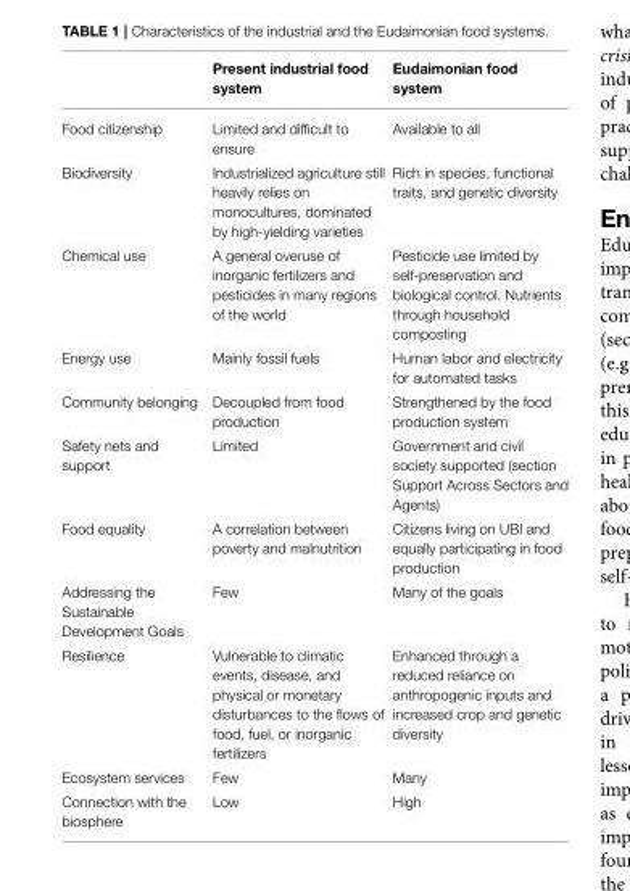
<table><thead><tr><td></td><td>Present industrial food system</td><td>Eudaimonian food system</td></tr></thead><tbody><tr><td>Food citizenship</td><td>Limited and difficult to ensure</td><td>Available to all</td></tr><tr><td>Biodiversity</td><td>Industrialized agriculture still heavily relies on monocultures, dominated by high-yielding varieties</td><td>Rich in species, functional traits, and genetic diversity</td></tr><tr><td>Chemical use</td><td>A general overuse of inorganic fertilizers and pesticides in many regions of the world</td><td>Pesticide use limited by self-preservation and biological control. Nutrients through household composting</td></tr><tr><td>Energy use</td><td>Mainly fossil fuels</td><td>Human labor and electricity for automated tasks</td></tr><tr><td>Community belonging</td><td>Decoupled from food production</td><td>Strengthened by the food production system</td></tr><tr><td>Safety nets and support</td><td>Limited</td><td>Government and civil society supported (section Support Across Sectors and Agents)</td></tr><tr><td>Food equality</td><td>A correlation between poverty and malnutrition</td><td>Citizens living on UBI and equally participating in food production</td></tr><tr><td>Addressing the Sustainable Development Goals</td><td>Few</td><td>Many of the goals</td></tr><tr><td>Resilience</td><td>Vulnerable to climatic events, disease, and physical or monetary disturbances to the flows of food, fuel, or inorganic fertilizers</td><td>Enhanced through a reduced reliance on anthropogenic inputs and increased crop and genetic diversity</td></tr><tr><td>Ecosystem services</td><td>Few</td><td>Many</td></tr><tr><td>Connection with the biosphere</td><td>Low</td><td>High</td></tr></tbody></table>